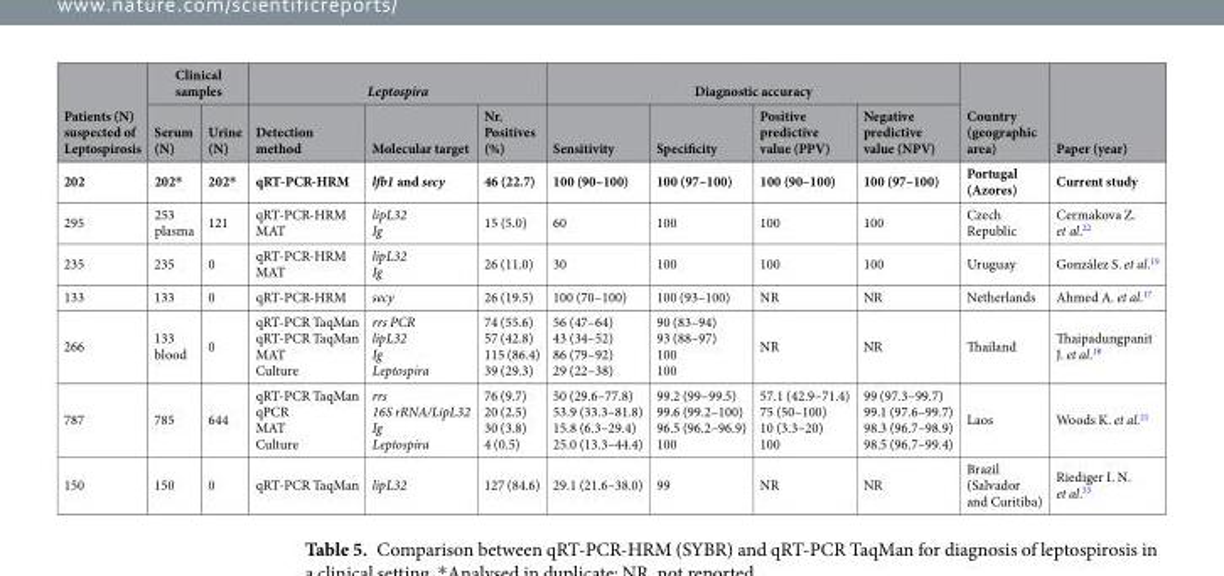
<table><thead><tr><td rowspan="2">Patients (N) suspected of Leptospirosis</td><td colspan="2">Clinical samples</td><td colspan="3">Leptospira</td><td colspan="4">Diagnostic accuracy</td><td rowspan="2">Country (geographic area)</td><td rowspan="2">Paper (year)</td></tr><tr><td>Serum (N)</td><td>Urine (N)</td><td>Detection method</td><td>Molecular target</td><td>Nr. Positives (%)</td><td>Sensitivity</td><td>Specificity</td><td>Positive predictive value (PPV)</td><td>Negative predictive value (NPV)</td></tr></thead><tbody><tr><td>202</td><td>202*</td><td>202*</td><td>qRT-PCR-HRM</td><td>lfb1 and secy</td><td>46 (22.7)</td><td>100 (90–100)</td><td>100 (97–100)</td><td>100 (90–100)</td><td>100 (97–100)</td><td>Portugal (Azores)</td><td>Current study</td></tr><tr><td>295</td><td>253 plasma</td><td>121</td><td>qRT-PCR-HRM MAT</td><td>lipL32 Ig</td><td>15 (5.0)</td><td>60</td><td>100</td><td>100</td><td>100</td><td>Czech Republic</td><td>Cermakova Z. et al.<sup>22</sup></td></tr><tr><td>235</td><td>235</td><td>0</td><td>qRT-PCR-HRM MAT</td><td>lipL32 Ig</td><td>26 (11.0)</td><td>30</td><td>100</td><td>100</td><td>100</td><td>Uruguay</td><td>González S. et al.<sup>19</sup></td></tr><tr><td>133</td><td>133</td><td>0</td><td>qRT-PCR-HRM</td><td>secy</td><td>26 (19.5)</td><td>100 (70–100)</td><td>100 (93–100)</td><td>NR</td><td>NR</td><td>Netherlands</td><td>Ahmed A. et al.<sup>17</sup></td></tr><tr><td>266</td><td>133 blood</td><td>0</td><td>qRT-PCR TaqMan qRT-PCR TaqMan MAT Culture</td><td>rrs PCR lipL32 Ig Leptospira</td><td>74 (55.6) 57 (42.8) 115 (86.4) 39 (29.3)</td><td>56 (47–64) 43 (34–52) 86 (79–92) 29 (22–38)</td><td>90 (83–94) 93 (88–97) 100 100</td><td>NR</td><td>NR</td><td>Thailand</td><td>Thaipadungpanit J. et al.<sup>18</sup></td></tr><tr><td>787</td><td>785</td><td>644</td><td>qRT-PCR TaqMan qPCR MAT Culture</td><td>rrs 16S rRNA/LipL32 Ig Leptospira</td><td>76 (9.7) 20 (2.5) 30 (3.8) 4 (0.5)</td><td>50 (29.6–77.8) 53.9 (33.3–81.8) 15.8 (6.3–29.4) 25.0 (13.3–44.4)</td><td>99.2 (99–99.5) 99.6 (99.2–100) 96.5 (96.2–96.9) 100</td><td>57.1 (42.9–71.4) 75 (50–100) 10 (3.3–20) 100</td><td>99 (97.3–99.7) 99.1 (97.6–99.7) 98.3 (96.7–98.9) 98.5 (96.7–99.4)</td><td>Laos</td><td>Woods K. et al.<sup>21</sup></td></tr><tr><td>150</td><td>150</td><td>0</td><td>qRT-PCR TaqMan</td><td>lipL32</td><td>127 (84.6)</td><td>29.1 (21.6–38.0)</td><td>99</td><td>NR</td><td>NR</td><td>Brazil (Salvador and Curitiba)</td><td>Riediger I. N. et al.<sup>33</sup></td></tr></tbody></table>